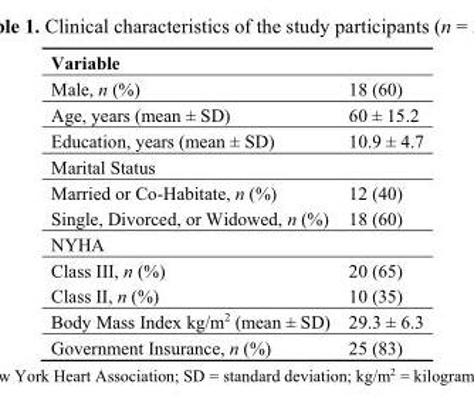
<table><thead><tr><td colspan="2">Variable</td></tr><tr><td>Male, n (%)</td><td>18 (60)</td></tr></thead><tbody><tr><td>Age, years (mean ± SD)</td><td>60 ± 15.2</td></tr><tr><td>Education, years (mean ± SD)</td><td>10.9 ± 4.7</td></tr><tr><td colspan="2">Marital Status</td></tr><tr><td>Married or Co-Habitate, n (%)</td><td>12 (40)</td></tr><tr><td>Single, Divorced, or Widowed, n (%)</td><td>18 (60)</td></tr><tr><td colspan="2">NYHA</td></tr><tr><td>Class III, n (%)</td><td>20 (65)</td></tr><tr><td>Class II, n (%)</td><td>10 (35)</td></tr><tr><td>Body Mass Index kg/m<sup>2</sup> (mean ± SD)</td><td>29.3 ± 6.3</td></tr><tr><td>Government Insurance, n (%)</td><td>25 (83)</td></tr></tbody></table>